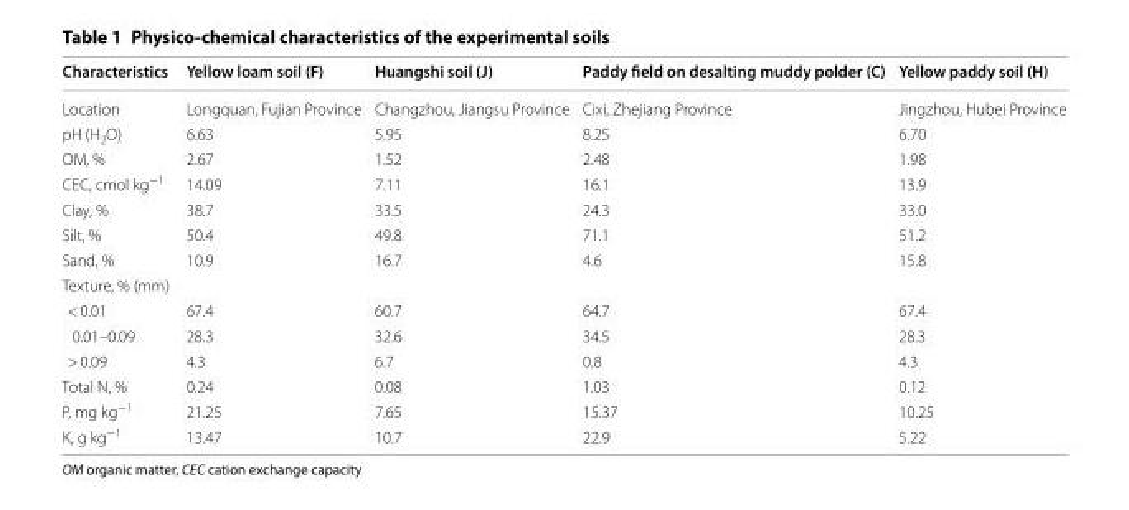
<table><thead><tr><td>Characteristics</td><td>Yellow loam soil (F)</td><td>Huangshi soil (J)</td><td>Paddy field on desalting muddy polder (C)</td><td>Yellow paddy soil (H)</td></tr></thead><tbody><tr><td>Location</td><td>Longquan, Fujian Province</td><td>Changzhou, Jiangsu Province</td><td>Cixi, Zhejiang Province</td><td>Jingzhou, Hubei Province</td></tr><tr><td>pH (H<sub>2</sub>O)</td><td>6.63</td><td>5.95</td><td>8.25</td><td>6.70</td></tr><tr><td>OM, %</td><td>2.67</td><td>1.52</td><td>2.48</td><td>1.98</td></tr><tr><td>CEC, cmol kg<sup>−1</sup></td><td>14.09</td><td>7.11</td><td>16.1</td><td>13.9</td></tr><tr><td>Clay, %</td><td>38.7</td><td>33.5</td><td>24.3</td><td>33.0</td></tr><tr><td>Silt, %</td><td>50.4</td><td>49.8</td><td>71.1</td><td>51.2</td></tr><tr><td>Sand, %</td><td>10.9</td><td>16.7</td><td>4.6</td><td>15.8</td></tr><tr><td colspan="5">Texture, % (mm)</td></tr><tr><td>&lt; 0.01</td><td>67.4</td><td>60.7</td><td>64.7</td><td>67.4</td></tr><tr><td>0.01–0.09</td><td>28.3</td><td>32.6</td><td>34.5</td><td>28.3</td></tr><tr><td>&gt; 0.09</td><td>4.3</td><td>6.7</td><td>0.8</td><td>4.3</td></tr><tr><td>Total N, %</td><td>0.24</td><td>0.08</td><td>1.03</td><td>0.12</td></tr><tr><td>P, mg kg<sup>−1</sup></td><td>21.25</td><td>7.65</td><td>15.37</td><td>10.25</td></tr><tr><td>K, g kg<sup>−1</sup></td><td>13.47</td><td>10.7</td><td>22.9</td><td>5.22</td></tr></tbody></table>